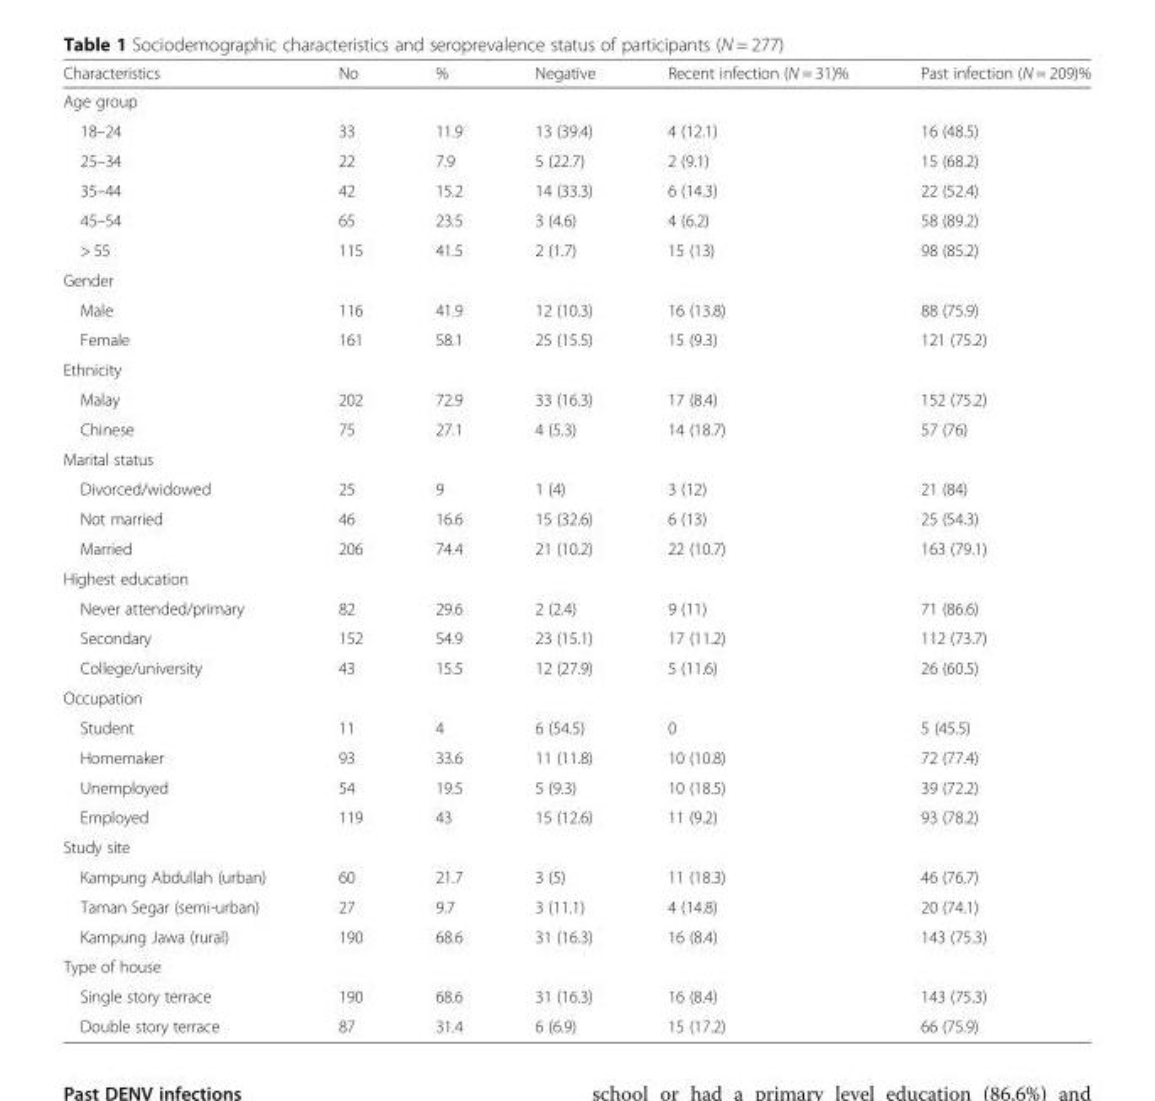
<table><thead><tr><td>Characteristics</td><td>No</td><td>%</td><td>Negative</td><td>Recent infection (N = 31)%</td><td>Past infection (N = 209)%</td></tr></thead><tbody><tr><td colspan="6">Age group</td></tr><tr><td>18–24</td><td>33</td><td>11.9</td><td>13 (39.4)</td><td>4 (12.1)</td><td>16 (48.5)</td></tr><tr><td>25–34</td><td>22</td><td>7.9</td><td>5 (22.7)</td><td>2 (9.1)</td><td>15 (68.2)</td></tr><tr><td>35–44</td><td>42</td><td>15.2</td><td>14 (33.3)</td><td>6 (14.3)</td><td>22 (52.4)</td></tr><tr><td>45–54</td><td>65</td><td>23.5</td><td>3 (4.6)</td><td>4 (6.2)</td><td>58 (89.2)</td></tr><tr><td>&gt; 55</td><td>115</td><td>41.5</td><td>2 (1.7)</td><td>15 (13)</td><td>98 (85.2)</td></tr><tr><td colspan="6">Gender</td></tr><tr><td>Male</td><td>116</td><td>41.9</td><td>12 (10.3)</td><td>16 (13.8)</td><td>88 (75.9)</td></tr><tr><td>Female</td><td>161</td><td>58.1</td><td>25 (15.5)</td><td>15 (9.3)</td><td>121 (75.2)</td></tr><tr><td colspan="6">Ethnicity</td></tr><tr><td>Malay</td><td>202</td><td>72.9</td><td>33 (16.3)</td><td>17 (8.4)</td><td>152 (75.2)</td></tr><tr><td>Chinese</td><td>75</td><td>27.1</td><td>4 (5.3)</td><td>14 (18.7)</td><td>57 (76)</td></tr><tr><td colspan="6">Marital status</td></tr><tr><td>Divorced/widowed</td><td>25</td><td>9</td><td>1 (4)</td><td>3 (12)</td><td>21 (84)</td></tr><tr><td>Not married</td><td>46</td><td>16.6</td><td>15 (32.6)</td><td>6 (13)</td><td>25 (54.3)</td></tr><tr><td>Married</td><td>206</td><td>74.4</td><td>21 (10.2)</td><td>22 (10.7)</td><td>163 (79.1)</td></tr><tr><td colspan="6">Highest education</td></tr><tr><td>Never attended/primary</td><td>82</td><td>29.6</td><td>2 (2.4)</td><td>9 (11)</td><td>71 (86.6)</td></tr><tr><td>Secondary</td><td>152</td><td>54.9</td><td>23 (15.1)</td><td>17 (11.2)</td><td>112 (73.7)</td></tr><tr><td>College/university</td><td>43</td><td>15.5</td><td>12 (27.9)</td><td>5 (11.6)</td><td>26 (60.5)</td></tr><tr><td colspan="6">Occupation</td></tr><tr><td>Student</td><td>11</td><td>4</td><td>6 (54.5)</td><td>0</td><td>5 (45.5)</td></tr><tr><td>Homemaker</td><td>93</td><td>33.6</td><td>11 (11.8)</td><td>10 (10.8)</td><td>72 (77.4)</td></tr><tr><td>Unemployed</td><td>54</td><td>19.5</td><td>5 (9.3)</td><td>10 (18.5)</td><td>39 (72.2)</td></tr><tr><td>Employed</td><td>119</td><td>43</td><td>15 (12.6)</td><td>11 (9.2)</td><td>93 (78.2)</td></tr><tr><td colspan="6">Study site</td></tr><tr><td>Kampung Abdullah (urban)</td><td>60</td><td>21.7</td><td>3 (5)</td><td>11 (18.3)</td><td>46 (76.7)</td></tr><tr><td>Taman Segar (semi-urban)</td><td>27</td><td>9.7</td><td>3 (11.1)</td><td>4 (14.8)</td><td>20 (74.1)</td></tr><tr><td>Kampung Jawa (rural)</td><td>190</td><td>68.6</td><td>31 (16.3)</td><td>16 (8.4)</td><td>143 (75.3)</td></tr><tr><td colspan="6">Type of house</td></tr><tr><td>Single story terrace</td><td>190</td><td>68.6</td><td>31 (16.3)</td><td>16 (8.4)</td><td>143 (75.3)</td></tr><tr><td>Double story terrace</td><td>87</td><td>31.4</td><td>6 (6.9)</td><td>15 (17.2)</td><td>66 (75.9)</td></tr></tbody></table>